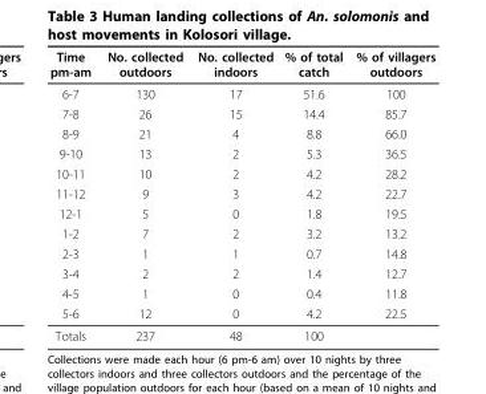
<table><thead><tr><td>Time pm-am</td><td>No. collected outdoors</td><td>No. collected indoors</td><td>% of total catch</td><td>% of villagers outdoors</td></tr></thead><tbody><tr><td>6-7</td><td>130</td><td>17</td><td>51.6</td><td>100</td></tr><tr><td>7-8</td><td>26</td><td>15</td><td>14.4</td><td>85.7</td></tr><tr><td>8-9</td><td>21</td><td>4</td><td>8.8</td><td>66.0</td></tr><tr><td>9-10</td><td>13</td><td>2</td><td>5.3</td><td>36.5</td></tr><tr><td>10-11</td><td>10</td><td>2</td><td>4.2</td><td>28.2</td></tr><tr><td>11-12</td><td>9</td><td>3</td><td>4.2</td><td>22.7</td></tr><tr><td>12-1</td><td>5</td><td>0</td><td>1.8</td><td>19.5</td></tr><tr><td>1-2</td><td>7</td><td>2</td><td>3.2</td><td>13.2</td></tr><tr><td>2-3</td><td>1</td><td>1</td><td>0.7</td><td>14.8</td></tr><tr><td>3-4</td><td>2</td><td>2</td><td>1.4</td><td>12.7</td></tr><tr><td>4-5</td><td>1</td><td>0</td><td>0.4</td><td>11.8</td></tr><tr><td>5-6</td><td>12</td><td>0</td><td>4.2</td><td>22.5</td></tr><tr><td>Totals</td><td>237</td><td>48</td><td>100</td><td></td></tr></tbody></table>